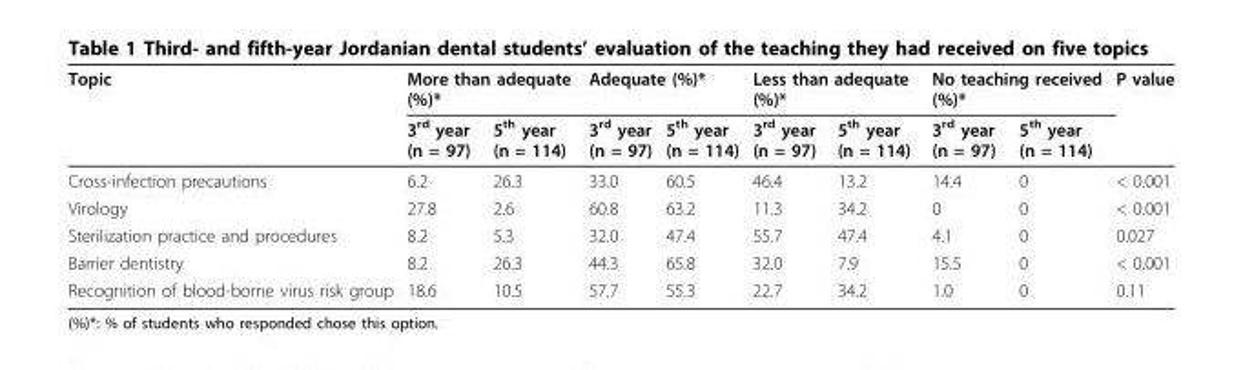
<table><thead><tr><td rowspan="2">Topic</td><td colspan="2">More than adequate (%)*</td><td colspan="2">Adequate (%)*</td><td colspan="2">Less than adequate (%)*</td><td colspan="2">No teaching received (%)*</td><td rowspan="2">P value</td></tr><tr><td>3<sup>rd</sup> year (n = 97)</td><td>5<sup>th</sup> year (n = 114)</td><td>3<sup>rd</sup> year (n = 97)</td><td>5<sup>th</sup> year (n = 114)</td><td>3<sup>rd</sup> year (n = 97)</td><td>5<sup>th</sup> year (n = 114)</td><td>3<sup>rd</sup> year (n = 97)</td><td>5<sup>th</sup> year (n = 114)</td></tr></thead><tbody><tr><td>Cross-infection precautions</td><td>6.2</td><td>26.3</td><td>33.0</td><td>60.5</td><td>46.4</td><td>13.2</td><td>14.4</td><td>0</td><td>&lt; 0.001</td></tr><tr><td>Virology</td><td>27.8</td><td>2.6</td><td>60.8</td><td>63.2</td><td>11.3</td><td>34.2</td><td>0</td><td>0</td><td>&lt; 0.001</td></tr><tr><td>Sterilization practice and procedures</td><td>8.2</td><td>5.3</td><td>32.0</td><td>47.4</td><td>55.7</td><td>47.4</td><td>4.1</td><td>0</td><td>0.027</td></tr><tr><td>Barrier dentistry</td><td>8.2</td><td>26.3</td><td>44.3</td><td>65.8</td><td>32.0</td><td>7.9</td><td>15.5</td><td>0</td><td>&lt; 0.001</td></tr><tr><td>Recognition of blood-borne virus risk group</td><td>18.6</td><td>10.5</td><td>57.7</td><td>55.3</td><td>22.7</td><td>34.2</td><td>1.0</td><td>0</td><td>0.11</td></tr></tbody></table>